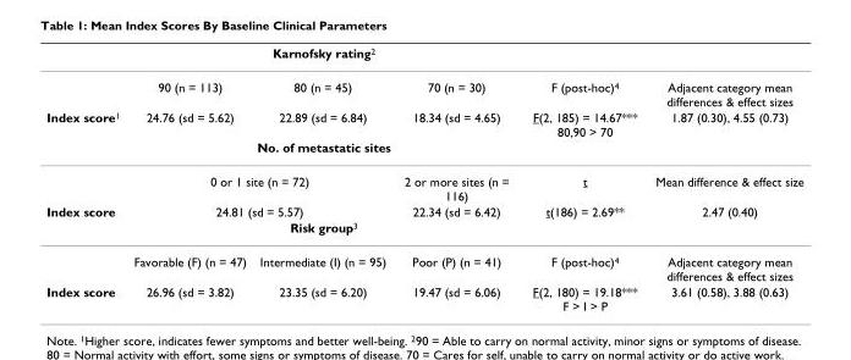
<table><thead><tr><td rowspan="2"></td><td colspan="3">Karnofsky rating<sup>2</sup></td><td rowspan="2">F (post-hoc)<sup>4</sup></td><td rowspan="2">Adjacent category mean differences &amp; effect sizes</td></tr><tr><td>90 (n = 113)</td><td>80 (n = 45)</td><td>70 (n = 30)</td></tr></thead><tbody><tr><td rowspan="3">Index score<sup>1</sup></td><td>24.76 (sd = 5.62)</td><td>22.89 (sd = 6.84)</td><td>18.34 (sd = 4.65)</td><td>F(2, 185) = 14.67*** 80,90 &gt; 70</td><td>1.87 (0.30), 4.55 (0.73)</td></tr><tr><td colspan="3">No. of metastatic sites</td><td></td><td></td></tr><tr><td colspan="2">0 or 1 site (n = 72)</td><td>2 or more sites (n = 116)</td><td>t</td><td>Mean difference &amp; effect size</td></tr><tr><td rowspan="3">Index score</td><td colspan="2">24.81 (sd = 5.57)</td><td>22.34 (sd = 6.42)</td><td>t(186) = 2.69**</td><td>2.47 (0.40)</td></tr><tr><td colspan="3">Risk group<sup>3</sup></td><td></td><td></td></tr><tr><td>Favorable (F) (n = 47)</td><td>Intermediate (I) (n = 95)</td><td>Poor (P) (n = 41)</td><td>F (post-hoc)<sup>4</sup></td><td>Adjacent category mean differences &amp; effect sizes</td></tr><tr><td>Index score</td><td>26.96 (sd = 3.82)</td><td>23.35 (sd = 6.20)</td><td>19.47 (sd = 6.06)</td><td>F(2, 180) = 19.18*** F &gt; I &gt; P</td><td>3.61 (0.58), 3.88 (0.63)</td></tr></tbody></table>